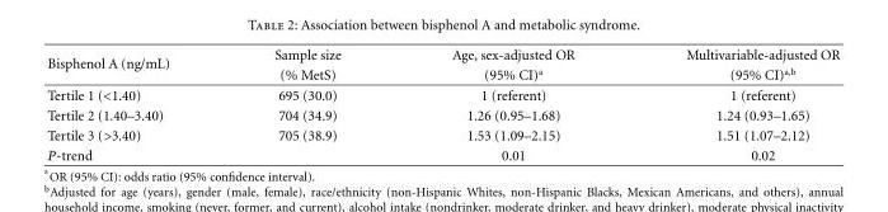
<table><thead><tr><td rowspan="2">Bisphenol A (ng/mL)</td><td rowspan="2">Sample size (% MetS)</td><td rowspan="2">Age, sex-adjusted OR (95% CI)<sup>a</sup></td><td rowspan="2">Multivariable-adjusted OR (95% CI)<sup>a,b</sup></td></tr><tr></tr></thead><tbody><tr><td>Tertile 1 (&lt;1.40)</td><td>695 (30.0)</td><td>1 (referent)</td><td>1 (referent)</td></tr><tr><td>Tertile 2 (1.40–3.40)</td><td>704 (34.9)</td><td>1.26 (0.95–1.68)</td><td>1.24 (0.93–1.65)</td></tr><tr><td>Tertile 3 (&gt;3.40)</td><td>705 (38.9)</td><td>1.53 (1.09–2.15)</td><td>1.51 (1.07–2.12)</td></tr><tr><td>P-trend</td><td></td><td>0.01</td><td>0.02</td></tr></tbody></table>